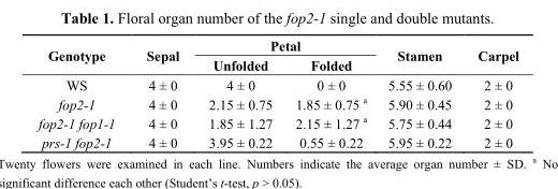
<table><thead><tr><td rowspan="2">Genotype</td><td rowspan="2">Sepal</td><td colspan="2">Petal</td><td rowspan="2">Stamen</td><td rowspan="2">Carpel</td></tr><tr><td>Unfolded</td><td>Folded</td></tr></thead><tbody><tr><td>WS</td><td>4 ± 0</td><td>4 ± 0</td><td>0 ± 0</td><td>5.55 ± 0.60</td><td>2 ± 0</td></tr><tr><td>fop2-1</td><td>4 ± 0</td><td>2.15 ± 0.75</td><td>1.85 ± 0.75 <sup>a</sup></td><td>5.90 ± 0.45</td><td>2 ± 0</td></tr><tr><td>fop2-1 fop1-1</td><td>4 ± 0</td><td>1.85 ± 1.27</td><td>2.15 ± 1.27 <sup>a</sup></td><td>5.75 ± 0.44</td><td>2 ± 0</td></tr><tr><td>prs-1 fop2-1</td><td>4 ± 0</td><td>3.95 ± 0.22</td><td>0.55 ± 0.22</td><td>5.95 ± 0.22</td><td>2 ± 0</td></tr></tbody></table>